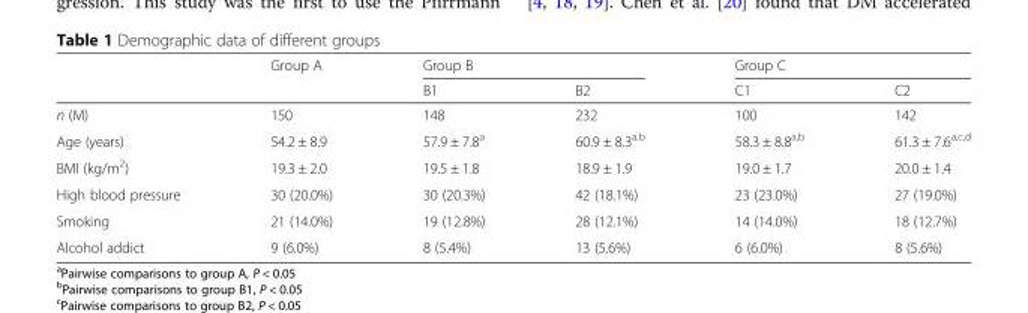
<table><thead><tr><td rowspan="2"></td><td rowspan="2">Group A</td><td colspan="2">Group B</td><td colspan="2">Group C</td></tr><tr><td>B1</td><td>B2</td><td>C1</td><td>C2</td></tr></thead><tbody><tr><td>n (M)</td><td>150</td><td>148</td><td>232</td><td>100</td><td>142</td></tr><tr><td>Age (years)</td><td>54.2 ± 8.9</td><td>57.9 ± 7.8<sup>a</sup></td><td>60.9 ± 8.3<sup>a,b</sup></td><td>58.3 ± 8.8<sup>a,b</sup></td><td>61.3 ± 7.6<sup>a,c,d</sup></td></tr><tr><td>BMI (kg/m<sup>2</sup>)</td><td>19.3 ± 2.0</td><td>19.5 ± 1.8</td><td>18.9 ± 1.9</td><td>19.0 ± 1.7</td><td>20.0 ± 1.4</td></tr><tr><td>High blood pressure</td><td>30 (20.0%)</td><td>30 (20.3%)</td><td>42 (18.1%)</td><td>23 (23.0%)</td><td>27 (19.0%)</td></tr><tr><td>Smoking</td><td>21 (14.0%)</td><td>19 (12.8%)</td><td>28 (12.1%)</td><td>14 (14.0%)</td><td>18 (12.7%)</td></tr><tr><td>Alcohol addict</td><td>9 (6.0%)</td><td>8 (5.4%)</td><td>13 (5.6%)</td><td>6 (6.0%)</td><td>8 (5.6%)</td></tr></tbody></table>